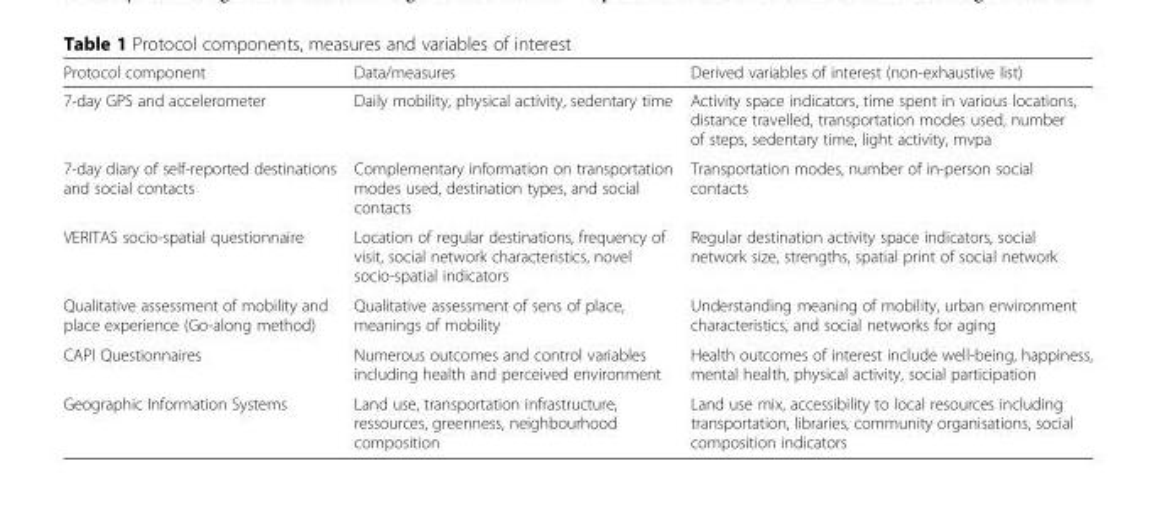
<table><thead><tr><td>Protocol component</td><td>Data/measures</td><td>Derived variables of interest (non-exhaustive list)</td></tr></thead><tbody><tr><td>7-day GPS and accelerometer</td><td>Daily mobility, physical activity, sedentary time</td><td>Activity space indicators, time spent in various locations, distance travelled, transportation modes used, number of steps, sedentary time, light activity, mvpa</td></tr><tr><td>7-day diary of self-reported destinations and social contacts</td><td>Complementary information on transportation modes used, destination types, and social contacts</td><td>Transportation modes, number of in-person social contacts</td></tr><tr><td>VERITAS socio-spatial questionnaire</td><td>Location of regular destinations, frequency of visit, social network characteristics, novel socio-spatial indicators</td><td>Regular destination activity space indicators, social network size, strengths, spatial print of social network</td></tr><tr><td>Qualitative assessment of mobility and place experience (Go-along method)</td><td>Qualitative assessment of sens of place, meanings of mobility</td><td>Understanding meaning of mobility, urban environment characteristics, and social networks for aging</td></tr><tr><td>CAPI Questionnaires</td><td>Numerous outcomes and control variables including health and perceived environment</td><td>Health outcomes of interest include well-being, happiness, mental health, physical activity, social participation</td></tr><tr><td>Geographic Information Systems</td><td>Land use, transportation infrastructure, ressources, greenness, neighbourhood composition</td><td>Land use mix, accessibility to local resources including transportation, libraries, community organisations, social composition indicators</td></tr></tbody></table>